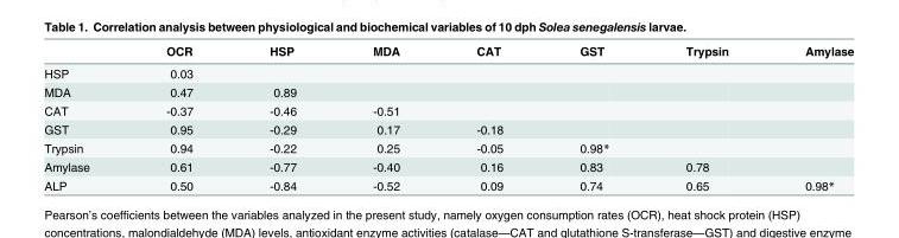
<table><thead><tr><td></td><td>OCR</td><td>HSP</td><td>MDA</td><td>CAT</td><td>GST</td><td>Trypsin</td><td>Amylase</td></tr></thead><tbody><tr><td>HSP</td><td>0.03</td><td></td><td></td><td></td><td></td><td></td><td></td></tr><tr><td>MDA</td><td>0.47</td><td>0.89</td><td></td><td></td><td></td><td></td><td></td></tr><tr><td>CAT</td><td>-0.37</td><td>-0.46</td><td>-0.51</td><td></td><td></td><td></td><td></td></tr><tr><td>GST</td><td>0.95</td><td>-0.29</td><td>0.17</td><td>-0.18</td><td></td><td></td><td></td></tr><tr><td>Trypsin</td><td>0.94</td><td>-0.22</td><td>0.25</td><td>-0.05</td><td>0.98*</td><td></td><td></td></tr><tr><td>Amylase</td><td>0.61</td><td>-0.77</td><td>-0.40</td><td>0.16</td><td>0.83</td><td>0.78</td><td></td></tr><tr><td>ALP</td><td>0.50</td><td>-0.84</td><td>-0.52</td><td>0.09</td><td>0.74</td><td>0.65</td><td>0.98*</td></tr></tbody></table>